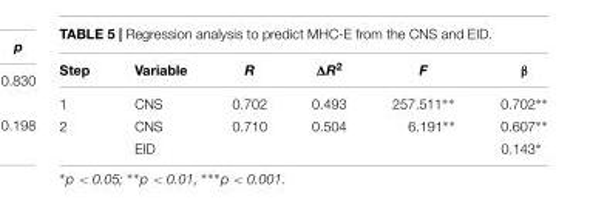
<table><thead><tr><td>Step</td><td>Variable</td><td>R</td><td>ΔR<sup>2</sup></td><td>F</td><td>β</td></tr></thead><tbody><tr><td>1</td><td>CNS</td><td>0.702</td><td>0.493</td><td>257.511∗∗</td><td>0.702∗∗</td></tr><tr><td rowspan="2">2</td><td>CNS</td><td>0.710</td><td>0.504</td><td>6.191∗∗</td><td>0.607∗∗</td></tr><tr><td>EID</td><td></td><td></td><td></td><td>0.143∗</td></tr></tbody></table>